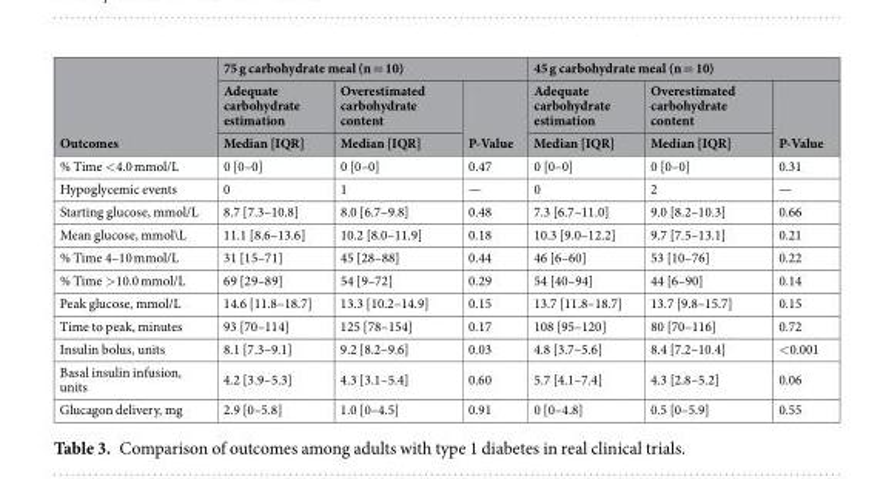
<table><thead><tr><td rowspan="3">Outcomes</td><td colspan="3">75 g carbohydrate meal (n = 10)</td><td colspan="3">45 g carbohydrate meal (n = 10)</td></tr><tr><td rowspan="2">Adequate carbohydrate estimation Median [IQR]</td><td rowspan="2">Overestimated carbohydrate content Median [IQR]</td><td rowspan="2">P-Value</td><td rowspan="2">Adequate carbohydrate estimation Median [IQR]</td><td rowspan="2">Overestimated carbohydrate content Median [IQR]</td><td rowspan="2">P-Value</td></tr><tr></tr></thead><tbody><tr><td>% Time &lt;4.0 mmol/L</td><td>0 [0–0]</td><td>0 [0–0]</td><td>0.47</td><td>0 [0–0]</td><td>0 [0–0]</td><td>0.31</td></tr><tr><td>Hypoglycemic events</td><td>0</td><td>1</td><td>—</td><td>0</td><td>2</td><td>—</td></tr><tr><td>Starting glucose, mmol/L</td><td>8.7 [7.3–10.8]</td><td>8.0 [6.7–9.8]</td><td>0.48</td><td>7.3 [6.7–11.0]</td><td>9.0 [8.2–10.3]</td><td>0.66</td></tr><tr><td>Mean glucose, mmol\L</td><td>11.1 [8.6–13.6]</td><td>10.2 [8.0–11.9]</td><td>0.18</td><td>10.3 [9.0–12.2]</td><td>9.7 [7.5–13.1]</td><td>0.21</td></tr><tr><td>% Time 4–10 mmol/L</td><td>31 [15–71]</td><td>45 [28–88]</td><td>0.44</td><td>46 [6–60]</td><td>53 [10–76]</td><td>0.22</td></tr><tr><td>% Time &gt;10.0 mmol/L</td><td>69 [29–89]</td><td>54 [9–72]</td><td>0.29</td><td>54 [40–94]</td><td>44 [6–90]</td><td>0.14</td></tr><tr><td>Peak glucose, mmol/L</td><td>14.6 [11.8–18.7]</td><td>13.3 [10.2–14.9]</td><td>0.15</td><td>13.7 [11.8–18.7]</td><td>13.7 [9.8–15.7]</td><td>0.15</td></tr><tr><td>Time to peak, minutes</td><td>93 [70–114]</td><td>125 [78–154]</td><td>0.17</td><td>108 [95–120]</td><td>80 [70–116]</td><td>0.72</td></tr><tr><td>Insulin bolus, units</td><td>8.1 [7.3–9.1]</td><td>9.2 [8.2–9.6]</td><td>0.03</td><td>4.8 [3.7–5.6]</td><td>8.4 [7.2–10.4]</td><td>&lt;0.001</td></tr><tr><td>Basal insulin infusion, units</td><td>4.2 [3.9–5.3]</td><td>4.3 [3.1–5.4]</td><td>0.60</td><td>5.7 [4.1–7.4]</td><td>4.3 [2.8–5.2]</td><td>0.06</td></tr><tr><td>Glucagon delivery, mg</td><td>2.9 [0–5.8]</td><td>1.0 [0–4.5]</td><td>0.91</td><td>0 [0–4.8]</td><td>0.5 [0–5.9]</td><td>0.55</td></tr></tbody></table>